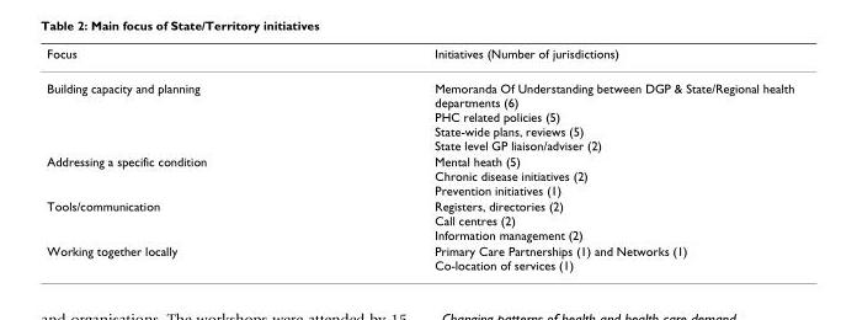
<table><thead><tr><td>Focus</td><td>Initiatives (Number of jurisdictions)</td></tr></thead><tbody><tr><td>Building capacity and planning</td><td>Memoranda Of Understanding between DGP &amp; State/Regional health departments (6) PHC related policies (5) State-wide plans, reviews (5) State level GP liaison/adviser (2)</td></tr><tr><td>Addressing a specific condition</td><td>Mental heath (5) Chronic disease initiatives (2) Prevention initiatives (1)</td></tr><tr><td>Tools/communication</td><td>Registers, directories (2) Call centres (2) Information management (2)</td></tr><tr><td>Working together locally</td><td>Primary Care Partnerships (1) and Networks (1) Co-location of services (1)</td></tr></tbody></table>